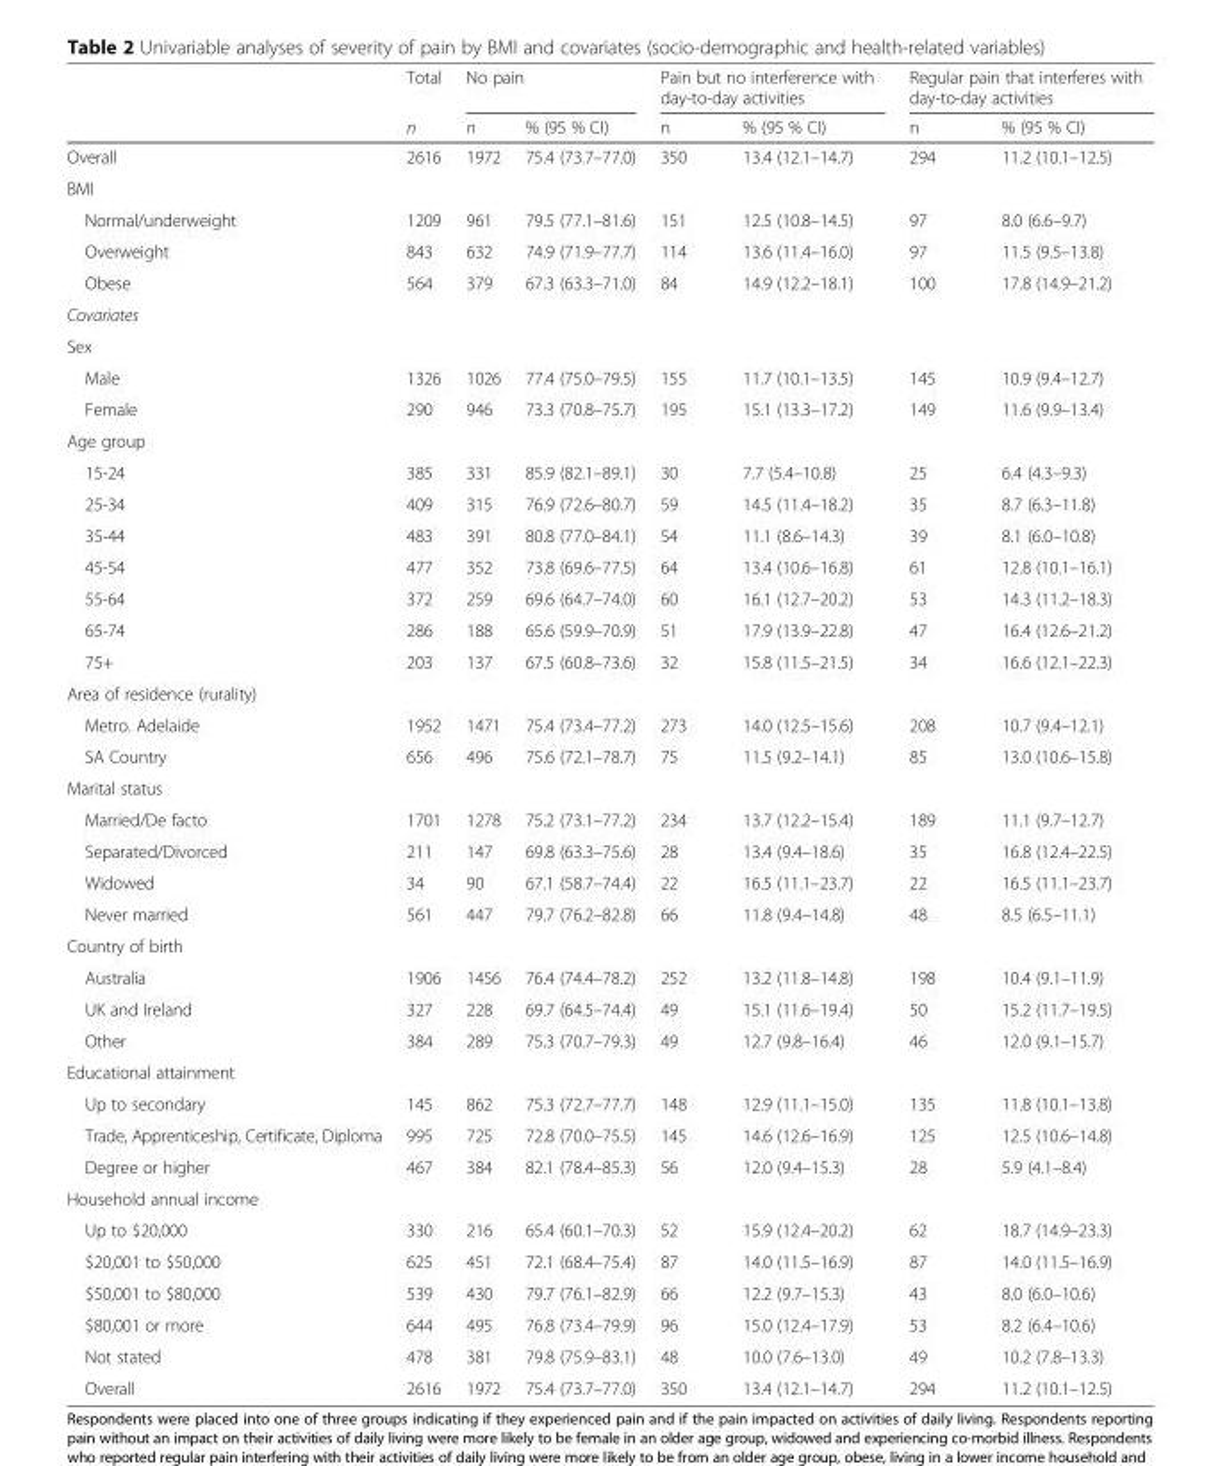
<table><thead><tr><td rowspan="2"></td><td rowspan="2">Total n</td><td colspan="2">No pain</td><td colspan="2">Pain but no interference with day-to-day activities</td><td colspan="2">Regular pain that interferes with day-to-day activities</td></tr><tr><td>n</td><td>% (95 % CI)</td><td>n</td><td>% (95 % CI)</td><td>n</td><td>% (95 % CI)</td></tr></thead><tbody><tr><td>Overall</td><td>2616</td><td>1972</td><td>75.4 (73.7–77.0)</td><td>350</td><td>13.4 (12.1–14.7)</td><td>294</td><td>11.2 (10.1–12.5)</td></tr><tr><td colspan="8">BMI</td></tr><tr><td>Normal/underweight</td><td>1209</td><td>961</td><td>79.5 (77.1–81.6)</td><td>151</td><td>12.5 (10.8–14.5)</td><td>97</td><td>8.0 (6.6–9.7)</td></tr><tr><td>Overweight</td><td>843</td><td>632</td><td>74.9 (71.9–77.7)</td><td>114</td><td>13.6 (11.4–16.0)</td><td>97</td><td>11.5 (9.5–13.8)</td></tr><tr><td>Obese</td><td>564</td><td>379</td><td>67.3 (63.3–71.0)</td><td>84</td><td>14.9 (12.2–18.1)</td><td>100</td><td>17.8 (14.9–21.2)</td></tr><tr><td colspan="8">Covariates</td></tr><tr><td colspan="8">Sex</td></tr><tr><td>Male</td><td>1326</td><td>1026</td><td>77.4 (75.0–79.5)</td><td>155</td><td>11.7 (10.1–13.5)</td><td>145</td><td>10.9 (9.4–12.7)</td></tr><tr><td>Female</td><td>290</td><td>946</td><td>73.3 (70.8–75.7)</td><td>195</td><td>15.1 (13.3–17.2)</td><td>149</td><td>11.6 (9.9–13.4)</td></tr><tr><td colspan="8">Age group</td></tr><tr><td>15-24</td><td>385</td><td>331</td><td>85.9 (82.1–89.1)</td><td>30</td><td>7.7 (5.4–10.8)</td><td>25</td><td>6.4 (4.3–9.3)</td></tr><tr><td>25-34</td><td>409</td><td>315</td><td>76.9 (72.6–80.7)</td><td>59</td><td>14.5 (11.4–18.2)</td><td>35</td><td>8.7 (6.3–11.8)</td></tr><tr><td>35-44</td><td>483</td><td>391</td><td>80.8 (77.0–84.1)</td><td>54</td><td>11.1 (8.6–14.3)</td><td>39</td><td>8.1 (6.0–10.8)</td></tr><tr><td>45-54</td><td>477</td><td>352</td><td>73.8 (69.6–77.5)</td><td>64</td><td>13.4 (10.6–16.8)</td><td>61</td><td>12.8 (10.1–16.1)</td></tr><tr><td>55-64</td><td>372</td><td>259</td><td>69.6 (64.7–74.0)</td><td>60</td><td>16.1 (12.7–20.2)</td><td>53</td><td>14.3 (11.2–18.3)</td></tr><tr><td>65-74</td><td>286</td><td>188</td><td>65.6 (59.9–70.9)</td><td>51</td><td>17.9 (13.9–22.8)</td><td>47</td><td>16.4 (12.6–21.2)</td></tr><tr><td>75+</td><td>203</td><td>137</td><td>67.5 (60.8–73.6)</td><td>32</td><td>15.8 (11.5–21.5)</td><td>34</td><td>16.6 (12.1–22.3)</td></tr><tr><td colspan="8">Area of residence (rurality)</td></tr><tr><td>Metro. Adelaide</td><td>1952</td><td>1471</td><td>75.4 (73.4–77.2)</td><td>273</td><td>14.0 (12.5–15.6)</td><td>208</td><td>10.7 (9.4–12.1)</td></tr><tr><td>SA Country</td><td>656</td><td>496</td><td>75.6 (72.1–78.7)</td><td>75</td><td>11.5 (9.2–14.1)</td><td>85</td><td>13.0 (10.6–15.8)</td></tr><tr><td colspan="8">Marital status</td></tr><tr><td>Married/De facto</td><td>1701</td><td>1278</td><td>75.2 (73.1–77.2)</td><td>234</td><td>13.7 (12.2–15.4)</td><td>189</td><td>11.1 (9.7–12.7)</td></tr><tr><td>Separated/Divorced</td><td>211</td><td>147</td><td>69.8 (63.3–75.6)</td><td>28</td><td>13.4 (9.4–18.6)</td><td>35</td><td>16.8 (12.4–22.5)</td></tr><tr><td>Widowed</td><td>34</td><td>90</td><td>67.1 (58.7–74.4)</td><td>22</td><td>16.5 (11.1–23.7)</td><td>22</td><td>16.5 (11.1–23.7)</td></tr><tr><td>Never married</td><td>561</td><td>447</td><td>79.7 (76.2–82.8)</td><td>66</td><td>11.8 (9.4–14.8)</td><td>48</td><td>8.5 (6.5–11.1)</td></tr><tr><td colspan="8">Country of birth</td></tr><tr><td>Australia</td><td>1906</td><td>1456</td><td>76.4 (74.4–78.2)</td><td>252</td><td>13.2 (11.8–14.8)</td><td>198</td><td>10.4 (9.1–11.9)</td></tr><tr><td>UK and Ireland</td><td>327</td><td>228</td><td>69.7 (64.5–74.4)</td><td>49</td><td>15.1 (11.6–19.4)</td><td>50</td><td>15.2 (11.7–19.5)</td></tr><tr><td>Other</td><td>384</td><td>289</td><td>75.3 (70.7–79.3)</td><td>49</td><td>12.7 (9.8–16.4)</td><td>46</td><td>12.0 (9.1–15.7)</td></tr><tr><td colspan="8">Educational attainment</td></tr><tr><td>Up to secondary</td><td>145</td><td>862</td><td>75.3 (72.7–77.7)</td><td>148</td><td>12.9 (11.1–15.0)</td><td>135</td><td>11.8 (10.1–13.8)</td></tr><tr><td>Trade, Apprenticeship, Certificate, Diploma</td><td>995</td><td>725</td><td>72.8 (70.0–75.5)</td><td>145</td><td>14.6 (12.6–16.9)</td><td>125</td><td>12.5 (10.6–14.8)</td></tr><tr><td>Degree or higher</td><td>467</td><td>384</td><td>82.1 (78.4–85.3)</td><td>56</td><td>12.0 (9.4–15.3)</td><td>28</td><td>5.9 (4.1–8.4)</td></tr><tr><td colspan="8">Household annual income</td></tr><tr><td>Up to $20,000</td><td>330</td><td>216</td><td>65.4 (60.1–70.3)</td><td>52</td><td>15.9 (12.4–20.2)</td><td>62</td><td>18.7 (14.9–23.3)</td></tr><tr><td>$20,001 to $50,000</td><td>625</td><td>451</td><td>72.1 (68.4–75.4)</td><td>87</td><td>14.0 (11.5–16.9)</td><td>87</td><td>14.0 (11.5–16.9)</td></tr><tr><td>$50,001 to $80,000</td><td>539</td><td>430</td><td>79.7 (76.1–82.9)</td><td>66</td><td>12.2 (9.7–15.3)</td><td>43</td><td>8.0 (6.0–10.6)</td></tr><tr><td>$80,001 or more</td><td>644</td><td>495</td><td>76.8 (73.4–79.9)</td><td>96</td><td>15.0 (12.4–17.9)</td><td>53</td><td>8.2 (6.4–10.6)</td></tr><tr><td>Not stated</td><td>478</td><td>381</td><td>79.8 (75.9–83.1)</td><td>48</td><td>10.0 (7.6–13.0)</td><td>49</td><td>10.2 (7.8–13.3)</td></tr><tr><td>Overall</td><td>2616</td><td>1972</td><td>75.4 (73.7–77.0)</td><td>350</td><td>13.4 (12.1–14.7)</td><td>294</td><td>11.2 (10.1–12.5)</td></tr></tbody></table>